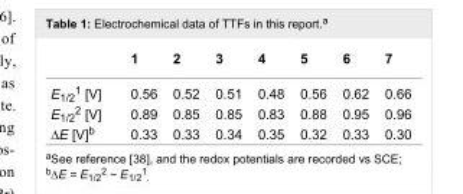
<table><thead><tr><td></td><td>1</td><td>2</td><td>3</td><td>4</td><td>5</td><td>6</td><td>7</td></tr></thead><tbody><tr><td>E<sub>1/2</sub><sup>1</sup> [V]</td><td>0.56</td><td>0.52</td><td>0.51</td><td>0.48</td><td>0.56</td><td>0.62</td><td>0.66</td></tr><tr><td>E<sub>1/2</sub><sup>2</sup> [V]</td><td>0.89</td><td>0.85</td><td>0.85</td><td>0.83</td><td>0.88</td><td>0.95</td><td>0.96</td></tr><tr><td>∆E [V]<sup>b</sup></td><td>0.33</td><td>0.33</td><td>0.34</td><td>0.35</td><td>0.32</td><td>0.33</td><td>0.30</td></tr></tbody></table>